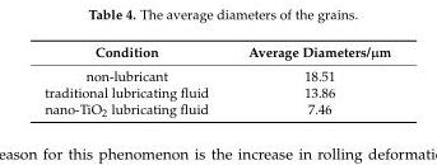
<table><thead><tr><td>Condition</td><td>Average Diameters/µm</td></tr></thead><tbody><tr><td>non-lubricant</td><td>18.51</td></tr><tr><td>traditional lubricating fluid</td><td>13.86</td></tr><tr><td>nano-TiO<sub>2</sub> lubricating fluid</td><td>7.46</td></tr></tbody></table>